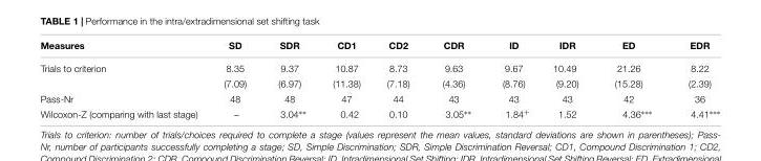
<table><thead><tr><td>Measures</td><td>SD</td><td>SDR</td><td>CD1</td><td>CD2</td><td>CDR</td><td>ID</td><td>IDR</td><td>ED</td><td>EDR</td></tr></thead><tbody><tr><td rowspan="2">Trials to criterion</td><td>8.35</td><td>9.37</td><td>10.87</td><td>8.73</td><td>9.63</td><td>9.67</td><td>10.49</td><td>21.26</td><td>8.22</td></tr><tr><td>(7.09)</td><td>(6.97)</td><td>(11.38)</td><td>(7.18)</td><td>(4.36)</td><td>(8.76)</td><td>(9.20)</td><td>(15.28)</td><td>(2.39)</td></tr><tr><td>Pass-Nr</td><td>48</td><td>48</td><td>47</td><td>44</td><td>43</td><td>43</td><td>43</td><td>42</td><td>36</td></tr><tr><td>Wilcoxon-Z (comparing with last stage)</td><td>–</td><td>3.04∗∗</td><td>0.42</td><td>0.10</td><td>3.05∗∗</td><td>1.84<sup>+</sup></td><td>1.52</td><td>4.36∗∗∗</td><td>4.41∗∗∗</td></tr></tbody></table>